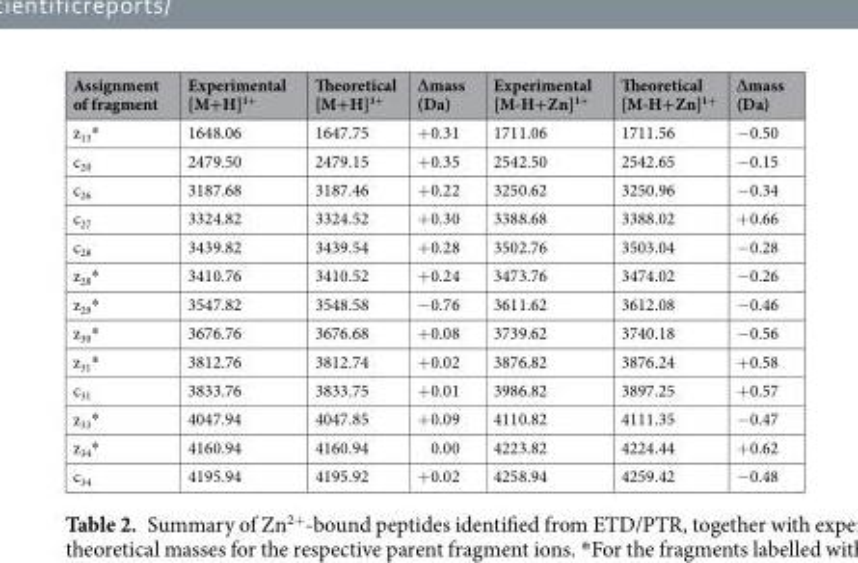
<table><thead><tr><td>Assignment of fragment</td><td>Experimental [M+H]<sup>1+</sup></td><td>Theoretical [M+H]<sup>1+</sup></td><td>∆mass (Da)</td><td>Experimental [M-H+Zn]<sup>1+</sup></td><td>Theoretical [M-H+Zn]<sup>1+</sup></td><td>∆mass (Da)</td></tr></thead><tbody><tr><td>z<sub>13</sub>*</td><td>1648.06</td><td>1647.75</td><td>+0.31</td><td>1711.06</td><td>1711.56</td><td>−0.50</td></tr><tr><td>c<sub>20</sub></td><td>2479.50</td><td>2479.15</td><td>+0.35</td><td>2542.50</td><td>2542.65</td><td>−0.15</td></tr><tr><td>c<sub>26</sub></td><td>3187.68</td><td>3187.46</td><td>+0.22</td><td>3250.62</td><td>3250.96</td><td>−0.34</td></tr><tr><td>c<sub>27</sub></td><td>3324.82</td><td>3324.52</td><td>+0.30</td><td>3388.68</td><td>3388.02</td><td>+0.66</td></tr><tr><td>c<sub>28</sub></td><td>3439.82</td><td>3439.54</td><td>+0.28</td><td>3502.76</td><td>3503.04</td><td>−0.28</td></tr><tr><td>z<sub>28</sub>*</td><td>3410.76</td><td>3410.52</td><td>+0.24</td><td>3473.76</td><td>3474.02</td><td>−0.26</td></tr><tr><td>z<sub>29</sub>*</td><td>3547.82</td><td>3548.58</td><td>−0.76</td><td>3611.62</td><td>3612.08</td><td>−0.46</td></tr><tr><td>z<sub>30</sub>*</td><td>3676.76</td><td>3676.68</td><td>+0.08</td><td>3739.62</td><td>3740.18</td><td>−0.56</td></tr><tr><td>z<sub>31</sub>*</td><td>3812.76</td><td>3812.74</td><td>+0.02</td><td>3876.82</td><td>3876.24</td><td>+0.58</td></tr><tr><td>c<sub>31</sub></td><td>3833.76</td><td>3833.75</td><td>+0.01</td><td>3986.82</td><td>3897.25</td><td>+0.57</td></tr><tr><td>z<sub>33</sub>*</td><td>4047.94</td><td>4047.85</td><td>+0.09</td><td>4110.82</td><td>4111.35</td><td>−0.47</td></tr><tr><td>z<sub>34</sub>*</td><td>4160.94</td><td>4160.94</td><td>0.00</td><td>4223.82</td><td>4224.44</td><td>+0.62</td></tr><tr><td>c<sub>34</sub></td><td>4195.94</td><td>4195.92</td><td>+0.02</td><td>4258.94</td><td>4259.42</td><td>−0.48</td></tr></tbody></table>